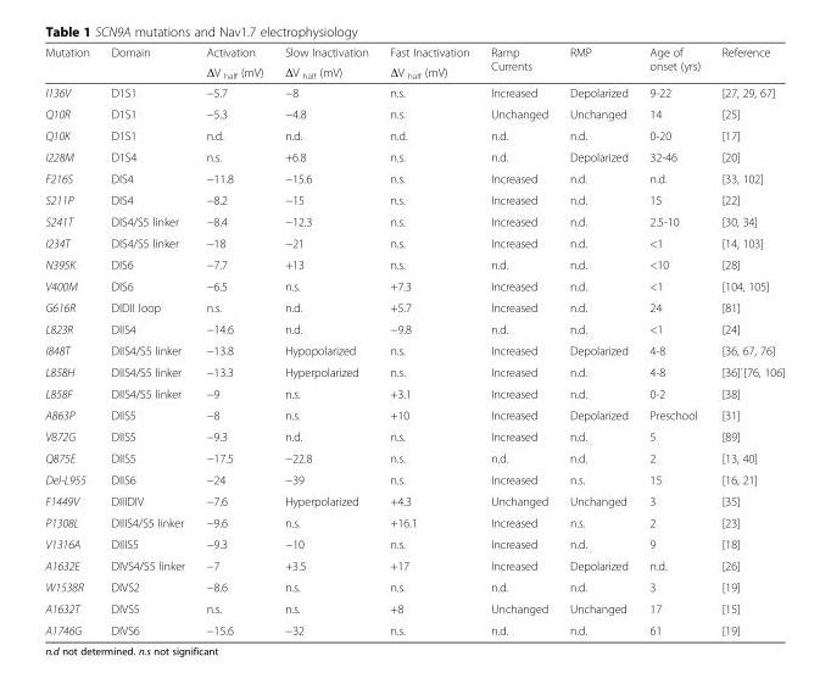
<table><thead><tr><td rowspan="2">Mutation</td><td rowspan="2">Domain</td><td rowspan="2">Activation ΔV <sub>half</sub> (mV)</td><td rowspan="2">Slow Inactivation ΔV <sub>half</sub> (mV)</td><td rowspan="2">Fast Inactivation ΔV <sub>half</sub> (mV)</td><td rowspan="2">Ramp Currents</td><td rowspan="2">RMP</td><td rowspan="2">Age of onset (yrs)</td><td rowspan="2">Reference</td></tr><tr></tr></thead><tbody><tr><td>I136V</td><td>D1S1</td><td>−5.7</td><td>−8</td><td>n.s.</td><td>Increased</td><td>Depolarized</td><td>9-22</td><td>[27, 29, 67]</td></tr><tr><td>Q10R</td><td>D1S1</td><td>−5.3</td><td>−4.8</td><td>n.s.</td><td>Unchanged</td><td>Unchanged</td><td>14</td><td>[25]</td></tr><tr><td>Q10K</td><td>D1S1</td><td>n.d.</td><td>n.d.</td><td>n.d.</td><td>n.d.</td><td>n.d.</td><td>0-20</td><td>[17]</td></tr><tr><td>I228M</td><td>D1S4</td><td>n.s.</td><td>+6.8</td><td>n.s.</td><td>n.d.</td><td>Depolarized</td><td>32-46</td><td>[20]</td></tr><tr><td>F216S</td><td>DIS4</td><td>−11.8</td><td>−15.6</td><td>n.s.</td><td>Increased</td><td>n.d.</td><td>n.d.</td><td>[33, 102]</td></tr><tr><td>S211P</td><td>DIS4</td><td>−8.2</td><td>−15</td><td>n.s.</td><td>Increased</td><td>n.d.</td><td>15</td><td>[22]</td></tr><tr><td>S241T</td><td>DIS4/S5 linker</td><td>−8.4</td><td>−12.3</td><td>n.s.</td><td>Increased</td><td>n.d.</td><td>2.5-10</td><td>[30, 34]</td></tr><tr><td>I234T</td><td>DIS4/S5 linker</td><td>−18</td><td>−21</td><td>n.s.</td><td>Increased</td><td>n.d.</td><td>&lt;1</td><td>[14, 103]</td></tr><tr><td>N395K</td><td>DIS6</td><td>−7.7</td><td>+13</td><td>n.s.</td><td>n.d.</td><td>n.d.</td><td>&lt;10</td><td>[28]</td></tr><tr><td>V400M</td><td>DIS6</td><td>−6.5</td><td>n.s.</td><td>+7.3</td><td>Increased</td><td>n.d.</td><td>&lt;1</td><td>[104, 105]</td></tr><tr><td>G616R</td><td>DIDII loop</td><td>n.s.</td><td>n.d.</td><td>+5.7</td><td>Increased</td><td>n.d.</td><td>24</td><td>[81]</td></tr><tr><td>L823R</td><td>DIIS4</td><td>−14.6</td><td>n.d.</td><td>−9.8</td><td>n.d.</td><td>n.d.</td><td>&lt;1</td><td>[24]</td></tr><tr><td>I848T</td><td>DIIS4/S5 linker</td><td>−13.8</td><td>Hypopolarized</td><td>n.s.</td><td>Increased</td><td>Depolarized</td><td>4-8</td><td>[36, 67, 76]</td></tr><tr><td>L858H</td><td>DIIS4/S5 linker</td><td>−13.3</td><td>Hyperpolarized</td><td>n.s.</td><td>Increased</td><td>n.d.</td><td>4-8</td><td>[36]`[76, 106]</td></tr><tr><td>L858F</td><td>DIIS4/S5 linker</td><td>−9</td><td>n.s.</td><td>+3.1</td><td>Increased</td><td>n.d.</td><td>0-2</td><td>[38]</td></tr><tr><td>A863P</td><td>DIIS5</td><td>−8</td><td>n.s.</td><td>+10</td><td>Increased</td><td>Depolarized</td><td>Preschool</td><td>[31]</td></tr><tr><td>V872G</td><td>DIIS5</td><td>−9.3</td><td>n.d.</td><td>n.s.</td><td>Increased</td><td>n.d.</td><td>5</td><td>[89]</td></tr><tr><td>Q875E</td><td>DIIS5</td><td>−17.5</td><td>−22.8</td><td>n.s.</td><td>n.d.</td><td>n.d.</td><td>2</td><td>[13, 40]</td></tr><tr><td>Del-L955</td><td>DIIS6</td><td>−24</td><td>−39</td><td>n.s.</td><td>Increased</td><td>n.s.</td><td>15</td><td>[16, 21]</td></tr><tr><td>F1449V</td><td>DIIIDIV</td><td>−7.6</td><td>Hyperpolarized</td><td>+4.3</td><td>Unchanged</td><td>Unchanged</td><td>3</td><td>[35]</td></tr><tr><td>P1308L</td><td>DIIIS4/S5 linker</td><td>−9.6</td><td>n.s.</td><td>+16.1</td><td>Increased</td><td>n.s.</td><td>2</td><td>[23]</td></tr><tr><td>V1316A</td><td>DIIIS5</td><td>−9.3</td><td>−10</td><td>n.s.</td><td>Increased</td><td>n.d.</td><td>9</td><td>[18]</td></tr><tr><td>A1632E</td><td>DIVS4/S5 linker</td><td>−7</td><td>+3.5</td><td>+17</td><td>Increased</td><td>Depolarized</td><td>n.d.</td><td>[26]</td></tr><tr><td>W1538R</td><td>DIVS2</td><td>−8.6</td><td>n.s.</td><td>n.s.</td><td>n.d.</td><td>n.d.</td><td>3</td><td>[19]</td></tr><tr><td>A1632T</td><td>DIVS5</td><td>n.s.</td><td>n.s.</td><td>+8</td><td>Unchanged</td><td>Unchanged</td><td>17</td><td>[15]</td></tr><tr><td>A1746G</td><td>DIVS6</td><td>−15.6</td><td>−32</td><td>n.s.</td><td>n.d.</td><td>n.d.</td><td>61</td><td>[19]</td></tr></tbody></table>